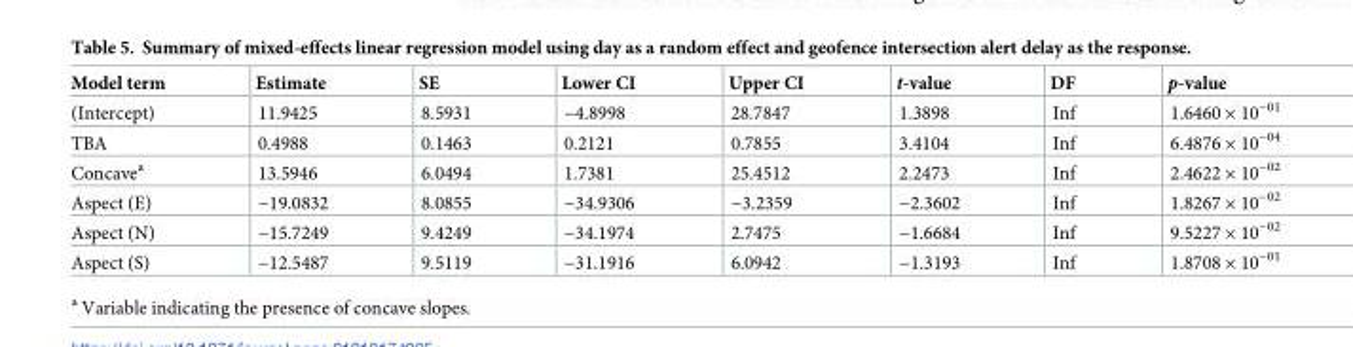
<table><thead><tr><td>Model term</td><td>Estimate</td><td>SE</td><td>Lower CI</td><td>Upper CI</td><td>t-value</td><td>DF</td><td>p-value</td></tr></thead><tbody><tr><td>(Intercept)</td><td>11.9425</td><td>8.5931</td><td>−4.8998</td><td>28.7847</td><td>1.3898</td><td>Inf</td><td>1.6460 × 10<sup>−01</sup></td></tr><tr><td>TBA</td><td>0.4988</td><td>0.1463</td><td>0.2121</td><td>0.7855</td><td>3.4104</td><td>Inf</td><td>6.4876 × 10<sup>−04</sup></td></tr><tr><td>Concave<sup>a</sup></td><td>13.5946</td><td>6.0494</td><td>1.7381</td><td>25.4512</td><td>2.2473</td><td>Inf</td><td>2.4622 × 10<sup>−02</sup></td></tr><tr><td>Aspect (E)</td><td>−19.0832</td><td>8.0855</td><td>−34.9306</td><td>−3.2359</td><td>−2.3602</td><td>Inf</td><td>1.8267 × 10<sup>−02</sup></td></tr><tr><td>Aspect (N)</td><td>−15.7249</td><td>9.4249</td><td>−34.1974</td><td>2.7475</td><td>−1.6684</td><td>Inf</td><td>9.5227 × 10<sup>−02</sup></td></tr><tr><td>Aspect (S)</td><td>−12.5487</td><td>9.5119</td><td>−31.1916</td><td>6.0942</td><td>−1.3193</td><td>Inf</td><td>1.8708 × 10<sup>−01</sup></td></tr></tbody></table>